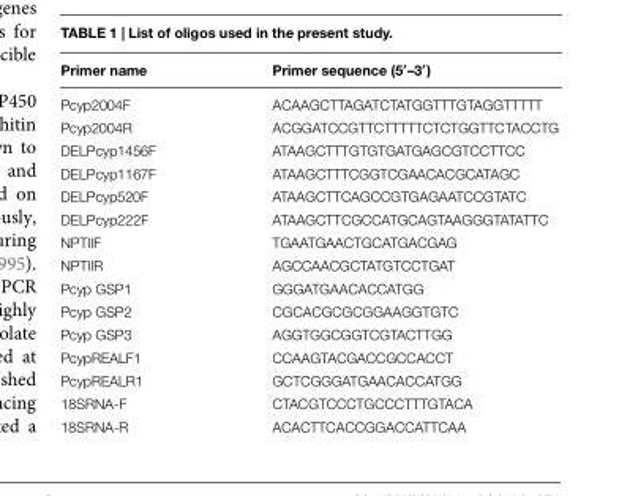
<table><thead><tr><td>Primer name</td><td>Primer sequence (5′–3′)</td></tr></thead><tbody><tr><td>Pcyp2004F</td><td>ACAAGCTTAGATCTATGGTTTGTAGGTTTTT</td></tr><tr><td>Pcyp2004R</td><td>ACGGATCCGTTCTTTTTCTCTGGTTCTACCTG</td></tr><tr><td>DELPcyp1456F</td><td>ATAAGCTTTGTGTGATGAGCGTCCTTCC</td></tr><tr><td>DELPcyp1167F</td><td>ATAAGCTTTCGGTCGAACACGCATAGC</td></tr><tr><td>DELPcyp520F</td><td>ATAAGCTTCAGCCGTGAGAATCCGTATC</td></tr><tr><td>DELPcyp222F</td><td>ATAAGCTTCGCCATGCAGTAAGGGTATATTC</td></tr><tr><td>NPTIIF</td><td>TGAATGAACTGCATGACGAG</td></tr><tr><td>NPTIIR</td><td>AGCCAACGCTATGTCCTGAT</td></tr><tr><td>Pcyp GSP1</td><td>GGGATGAACACCATGG</td></tr><tr><td>Pcyp GSP2</td><td>CGCACGCGCGGAAGGTGTC</td></tr><tr><td>Pcyp GSP3</td><td>AGGTGGCGGTCGTACTTGG</td></tr><tr><td>PcypREALF1</td><td>CCAAGTACGACCGCCACCT</td></tr><tr><td>PcypREALR1</td><td>GCTCGGGATGAACACCATGG</td></tr><tr><td>18SRNA-F</td><td>CTACGTCCCTGCCCTTTGTACA</td></tr><tr><td>18SRNA-R</td><td>ACACTTCACCGGACCATTCAA</td></tr></tbody></table>